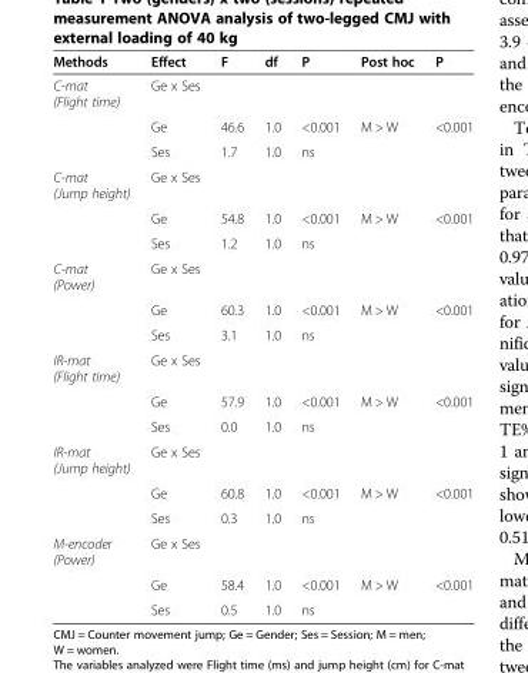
<table><thead><tr><td>Methods</td><td>Effect</td><td>F</td><td>df</td><td>P</td><td>Post hoc</td><td>P</td></tr></thead><tbody><tr><td rowspan="3">C-mat (Flight time)</td><td>Ge x Ses</td><td></td><td></td><td></td><td></td><td></td></tr><tr><td>Ge</td><td>46.6</td><td>1.0</td><td>&lt;0.001</td><td>M &gt; W</td><td>&lt;0.001</td></tr><tr><td>Ses</td><td>1.7</td><td>1.0</td><td>ns</td><td></td><td></td></tr><tr><td rowspan="3">C-mat (Jump height)</td><td>Ge x Ses</td><td></td><td></td><td></td><td></td><td></td></tr><tr><td>Ge</td><td>54.8</td><td>1.0</td><td>&lt;0.001</td><td>M &gt; W</td><td>&lt;0.001</td></tr><tr><td>Ses</td><td>1.2</td><td>1.0</td><td>ns</td><td></td><td></td></tr><tr><td rowspan="3">C-mat (Power)</td><td>Ge x Ses</td><td></td><td></td><td></td><td></td><td></td></tr><tr><td>Ge</td><td>60.3</td><td>1.0</td><td>&lt;0.001</td><td>M &gt; W</td><td>&lt;0.001</td></tr><tr><td>Ses</td><td>3.1</td><td>1.0</td><td>ns</td><td></td><td></td></tr><tr><td rowspan="3">IR-mat (Flight time)</td><td>Ge x Ses</td><td></td><td></td><td></td><td></td><td></td></tr><tr><td>Ge</td><td>57.9</td><td>1.0</td><td>&lt;0.001</td><td>M &gt; W</td><td>&lt;0.001</td></tr><tr><td>Ses</td><td>0.0</td><td>1.0</td><td>ns</td><td></td><td></td></tr><tr><td rowspan="3">IR-mat (Jump height)</td><td>Ge x Ses</td><td></td><td></td><td></td><td></td><td></td></tr><tr><td>Ge</td><td>60.8</td><td>1.0</td><td>&lt;0.001</td><td>M &gt; W</td><td>&lt;0.001</td></tr><tr><td>Ses</td><td>0.3</td><td>1.0</td><td>ns</td><td></td><td></td></tr><tr><td rowspan="3">M-encoder (Power)</td><td>Ge x Ses</td><td></td><td></td><td></td><td></td><td></td></tr><tr><td>Ge</td><td>58.4</td><td>1.0</td><td>&lt;0.001</td><td>M &gt; W</td><td>&lt;0.001</td></tr><tr><td>Ses</td><td>0.5</td><td>1.0</td><td>ns</td><td></td><td></td></tr></tbody></table>